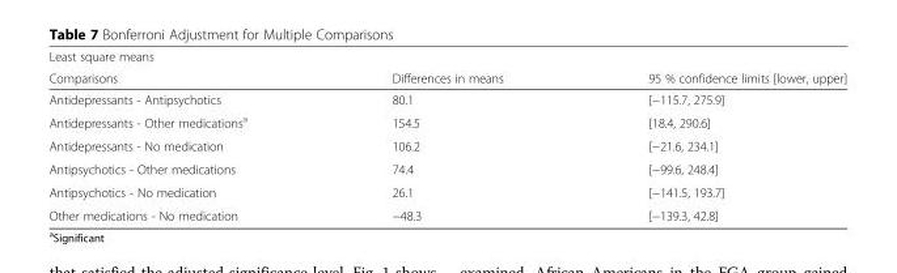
<table><thead><tr><td rowspan="2">Least square means Comparisons</td><td rowspan="2">Differences in means</td><td rowspan="2">95 % confidence limits [lower, upper]</td></tr><tr></tr></thead><tbody><tr><td>Antidepressants - Antipsychotics</td><td>80.1</td><td>[−115.7, 275.9]</td></tr><tr><td>Antidepressants - Other medications<sup>a</sup></td><td>154.5</td><td>[18.4, 290.6]</td></tr><tr><td>Antidepressants - No medication</td><td>106.2</td><td>[−21.6, 234.1]</td></tr><tr><td>Antipsychotics - Other medications</td><td>74.4</td><td>[−99.6, 248.4]</td></tr><tr><td>Antipsychotics - No medication</td><td>26.1</td><td>[−141.5, 193.7]</td></tr><tr><td>Other medications - No medication</td><td>−48.3</td><td>[−139.3, 42.8]</td></tr></tbody></table>